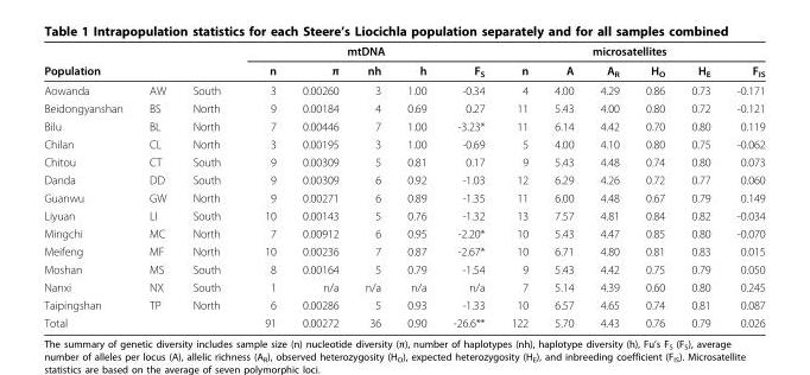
<table><thead><tr><td rowspan="2">Population</td><td rowspan="2"></td><td rowspan="2"></td><td colspan="5">mtDNA</td><td colspan="6">microsatellites</td></tr><tr><td>n</td><td>π</td><td>nh</td><td>h</td><td>F<sub>S</sub></td><td>n</td><td>A</td><td>A<sub>R</sub></td><td>H<sub>O</sub></td><td>H<sub>E</sub></td><td>F<sub>IS</sub></td></tr></thead><tbody><tr><td>Aowanda</td><td>AW</td><td>South</td><td>3</td><td>0.00260</td><td>3</td><td>1.00</td><td>-0.34</td><td>4</td><td>4.00</td><td>4.29</td><td>0.86</td><td>0.73</td><td>-0.171</td></tr><tr><td>Beidongyanshan</td><td>BS</td><td>North</td><td>9</td><td>0.00184</td><td>4</td><td>0.69</td><td>0.27</td><td>11</td><td>5.43</td><td>4.00</td><td>0.80</td><td>0.72</td><td>-0.121</td></tr><tr><td>Bilu</td><td>BL</td><td>North</td><td>7</td><td>0.00446</td><td>7</td><td>1.00</td><td>-3.23*</td><td>11</td><td>6.14</td><td>4.42</td><td>0.70</td><td>0.80</td><td>0.119</td></tr><tr><td>Chilan</td><td>CL</td><td>North</td><td>3</td><td>0.00195</td><td>3</td><td>1.00</td><td>-0.69</td><td>5</td><td>4.00</td><td>4.10</td><td>0.80</td><td>0.75</td><td>-0.062</td></tr><tr><td>Chitou</td><td>CT</td><td>South</td><td>9</td><td>0.00309</td><td>5</td><td>0.81</td><td>0.17</td><td>9</td><td>5.43</td><td>4.48</td><td>0.74</td><td>0.80</td><td>0.073</td></tr><tr><td>Danda</td><td>DD</td><td>South</td><td>9</td><td>0.00309</td><td>6</td><td>0.92</td><td>-1.03</td><td>12</td><td>6.29</td><td>4.26</td><td>0.72</td><td>0.77</td><td>0.060</td></tr><tr><td>Guanwu</td><td>GW</td><td>North</td><td>9</td><td>0.00271</td><td>6</td><td>0.89</td><td>-1.35</td><td>11</td><td>6.00</td><td>4.48</td><td>0.67</td><td>0.79</td><td>0.149</td></tr><tr><td>Liyuan</td><td>LI</td><td>South</td><td>10</td><td>0.00143</td><td>5</td><td>0.76</td><td>-1.32</td><td>13</td><td>7.57</td><td>4.81</td><td>0.84</td><td>0.82</td><td>-0.034</td></tr><tr><td>Mingchi</td><td>MC</td><td>North</td><td>7</td><td>0.00912</td><td>6</td><td>0.95</td><td>-2.20*</td><td>10</td><td>5.43</td><td>4.47</td><td>0.85</td><td>0.80</td><td>-0.070</td></tr><tr><td>Meifeng</td><td>MF</td><td>North</td><td>10</td><td>0.00236</td><td>7</td><td>0.87</td><td>-2.67*</td><td>10</td><td>6.71</td><td>4.80</td><td>0.81</td><td>0.83</td><td>0.015</td></tr><tr><td>Moshan</td><td>MS</td><td>South</td><td>8</td><td>0.00164</td><td>5</td><td>0.79</td><td>-1.54</td><td>9</td><td>5.43</td><td>4.42</td><td>0.75</td><td>0.79</td><td>0.050</td></tr><tr><td>Nanxi</td><td>NX</td><td>South</td><td>1</td><td>n/a</td><td>n/a</td><td>n/a</td><td>n/a</td><td>7</td><td>5.14</td><td>4.39</td><td>0.60</td><td>0.80</td><td>0.245</td></tr><tr><td>Taipingshan</td><td>TP</td><td>North</td><td>6</td><td>0.00286</td><td>5</td><td>0.93</td><td>-1.33</td><td>10</td><td>6.57</td><td>4.65</td><td>0.74</td><td>0.81</td><td>0.087</td></tr><tr><td>Total</td><td></td><td></td><td>91</td><td>0.00272</td><td>36</td><td>0.90</td><td>-26.6**</td><td>122</td><td>5.70</td><td>4.43</td><td>0.76</td><td>0.79</td><td>0.026</td></tr></tbody></table>